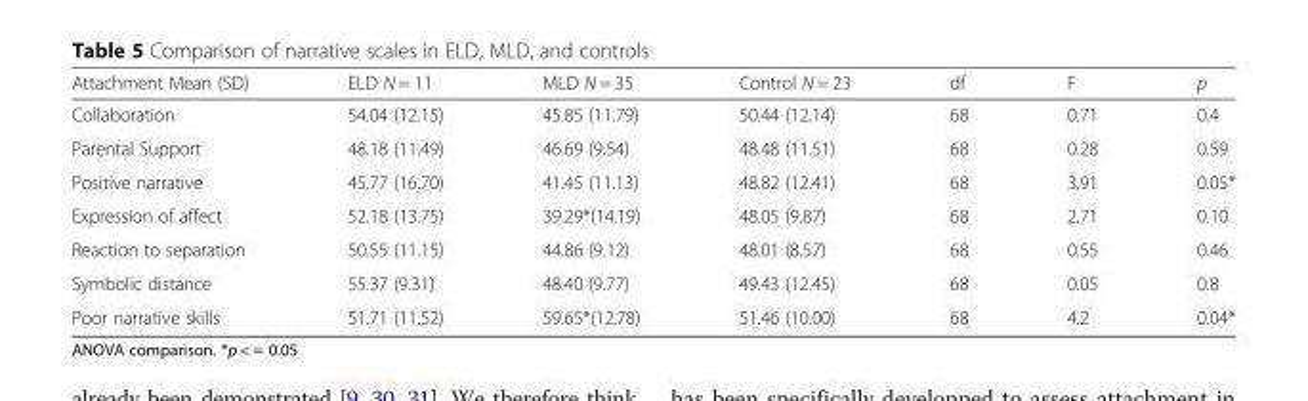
<table><thead><tr><td>Attachment Mean (SD)</td><td>ELD N = 11</td><td>MLD N = 35</td><td>Control N = 23</td><td>df</td><td>F</td><td>p</td></tr></thead><tbody><tr><td>Collaboration</td><td>54.04 (12.15)</td><td>45.85 (11.79)</td><td>50.44 (12.14)</td><td>68</td><td>0.71</td><td>0.4</td></tr><tr><td>Parental Support</td><td>48.18 (11.49)</td><td>46.69 (9.54)</td><td>48.48 (11.51)</td><td>68</td><td>0.28</td><td>0.59</td></tr><tr><td>Positive narrative</td><td>45.77 (16.70)</td><td>41.45 (11.13)</td><td>48.82 (12.41)</td><td>68</td><td>3.91</td><td>0.05*</td></tr><tr><td>Expression of affect</td><td>52.18 (13.75)</td><td>39.29*(14.19)</td><td>48.05 (9.87)</td><td>68</td><td>2.71</td><td>0.10</td></tr><tr><td>Reaction to separation</td><td>50.55 (11.15)</td><td>44.86 (9.12)</td><td>48.01 (8.57)</td><td>68</td><td>0.55</td><td>0.46</td></tr><tr><td>Symbolic distance</td><td>55.37 (9.31)</td><td>48.40 (9.77)</td><td>49.43 (12.45)</td><td>68</td><td>0.05</td><td>0.8</td></tr><tr><td>Poor narrative skills</td><td>51.71 (11.52)</td><td>59.65*(12.78)</td><td>51.46 (10.00)</td><td>68</td><td>4.2</td><td>0.04*</td></tr></tbody></table>